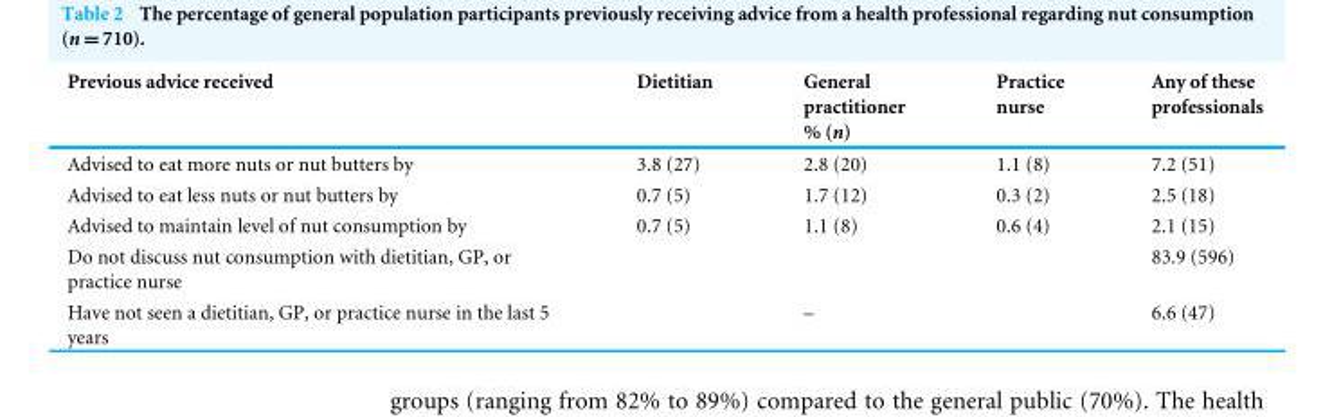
<table><thead><tr><td rowspan="2">Previous advice received</td><td rowspan="2">Dietitian</td><td rowspan="2">General practitioner % (n)</td><td rowspan="2">Practice nurse</td><td rowspan="2">Any of these professionals</td></tr><tr></tr></thead><tbody><tr><td>Advised to eat more nuts or nut butters by</td><td>3.8 (27)</td><td>2.8 (20)</td><td>1.1 (8)</td><td>7.2 (51)</td></tr><tr><td>Advised to eat less nuts or nut butters by</td><td>0.7 (5)</td><td>1.7 (12)</td><td>0.3 (2)</td><td>2.5 (18)</td></tr><tr><td>Advised to maintain level of nut consumption by</td><td>0.7 (5)</td><td>1.1 (8)</td><td>0.6 (4)</td><td>2.1 (15)</td></tr><tr><td>Do not discuss nut consumption with dietitian, GP, or practice nurse</td><td></td><td></td><td></td><td>83.9 (596)</td></tr><tr><td>Have not seen a dietitian, GP, or practice nurse in the last 5 years</td><td></td><td>–</td><td></td><td>6.6 (47)</td></tr></tbody></table>